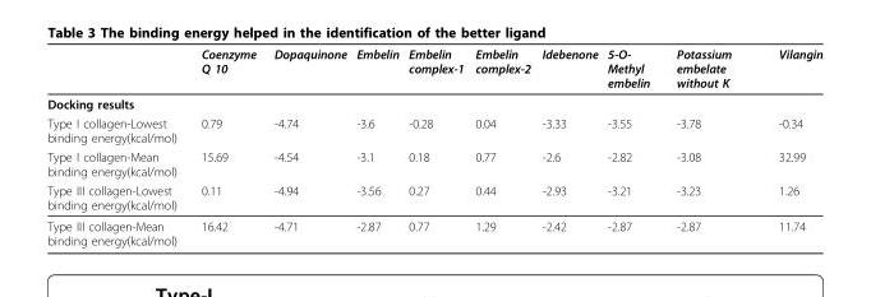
<table><thead><tr><td></td><td>Coenzyme Q 10</td><td>Dopaquinone</td><td>Embelin</td><td>Embelin complex-1</td><td>Embelin complex-2</td><td>Idebenone</td><td>5-O- Methyl embelin</td><td>Potassium embelate without K</td><td>Vilangin</td></tr></thead><tbody><tr><td colspan="10">Docking results</td></tr><tr><td>Type I collagen-Lowest binding energy(kcal/mol)</td><td>0.79</td><td>-4.74</td><td>-3.6</td><td>-0.28</td><td>0.04</td><td>-3.33</td><td>-3.55</td><td>-3.78</td><td>-0.34</td></tr><tr><td>Type I collagen-Mean binding energy(kcal/mol)</td><td>15.69</td><td>-4.54</td><td>-3.1</td><td>0.18</td><td>0.77</td><td>-2.6</td><td>-2.82</td><td>-3.08</td><td>32.99</td></tr><tr><td>Type III collagen-Lowest binding energy(kcal/mol)</td><td>0.11</td><td>-4.94</td><td>-3.56</td><td>0.27</td><td>0.44</td><td>-2.93</td><td>-3.21</td><td>-3.23</td><td>1.26</td></tr><tr><td>Type III collagen-Mean binding energy(kcal/mol)</td><td>16.42</td><td>-4.71</td><td>-2.87</td><td>0.77</td><td>1.29</td><td>-2.42</td><td>-2.87</td><td>-2.87</td><td>11.74</td></tr></tbody></table>